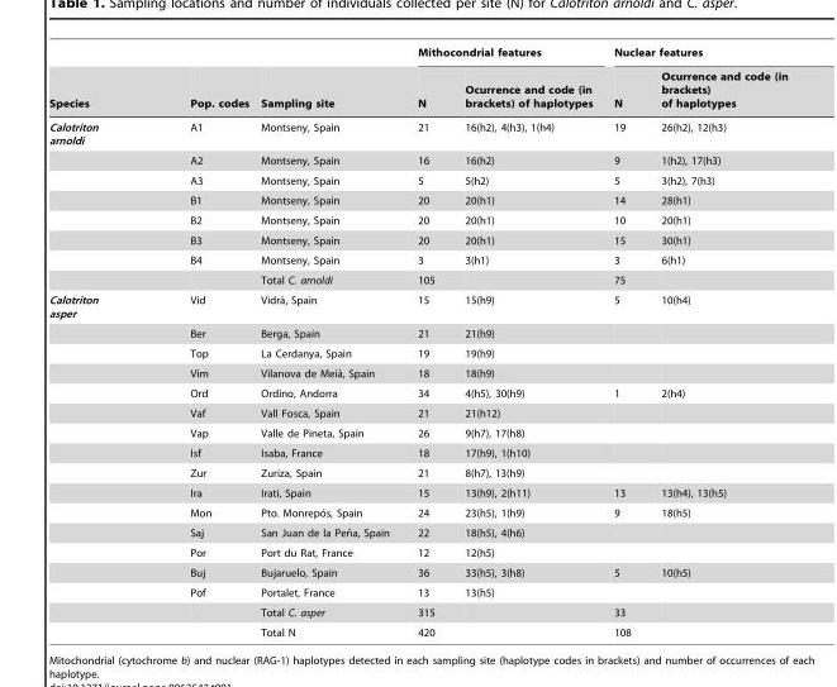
<table><thead><tr><td rowspan="2">Species</td><td rowspan="2">Pop. codes</td><td rowspan="2">Sampling site</td><td colspan="2">Mithocondrial features</td><td colspan="2">Nuclear features</td></tr><tr><td>N</td><td>Ocurrence and code (in brackets) of haplotypes</td><td>N</td><td>Ocurrence and code (in brackets) of haplotypes</td></tr></thead><tbody><tr><td rowspan="8">Calotriton arnoldi</td><td>A1</td><td>Montseny, Spain</td><td>21</td><td>16(h2), 4(h3), 1(h4)</td><td>19</td><td>26(h2), 12(h3)</td></tr><tr><td>A2</td><td>Montseny, Spain</td><td>16</td><td>16(h2)</td><td>9</td><td>1(h2), 17(h3)</td></tr><tr><td>A3</td><td>Montseny, Spain</td><td>5</td><td>5(h2)</td><td>5</td><td>3(h2), 7(h3)</td></tr><tr><td>B1</td><td>Montseny, Spain</td><td>20</td><td>20(h1)</td><td>14</td><td>28(h1)</td></tr><tr><td>B2</td><td>Montseny, Spain</td><td>20</td><td>20(h1)</td><td>10</td><td>20(h1)</td></tr><tr><td>B3</td><td>Montseny, Spain</td><td>20</td><td>20(h1)</td><td>15</td><td>30(h1)</td></tr><tr><td>B4</td><td>Montseny, Spain</td><td>3</td><td>3(h1)</td><td>3</td><td>6(h1)</td></tr><tr><td></td><td>Total C. arnoldi</td><td>105</td><td></td><td>75</td><td></td></tr><tr><td rowspan="17">Calotriton asper</td><td>Vid</td><td>Vidra`, Spain</td><td>15</td><td>15(h9)</td><td>5</td><td>10(h4)</td></tr><tr><td>Ber</td><td>Berga, Spain</td><td>21</td><td>21(h9)</td><td></td><td></td></tr><tr><td>Top</td><td>La Cerdanya, Spain</td><td>19</td><td>19(h9)</td><td></td><td></td></tr><tr><td>Vim</td><td>Vilanova de Meia`, Spain</td><td>18</td><td>18(h9)</td><td></td><td></td></tr><tr><td>Ord</td><td>Ordino, Andorra</td><td>34</td><td>4(h5), 30(h9)</td><td>1</td><td>2(h4)</td></tr><tr><td>Vaf</td><td>Vall Fosca, Spain</td><td>21</td><td>21(h12)</td><td></td><td></td></tr><tr><td>Vap</td><td>Valle de Pineta, Spain</td><td>26</td><td>9(h7), 17(h8)</td><td></td><td></td></tr><tr><td>Isf</td><td>Isaba, France</td><td>18</td><td>17(h9), 1(h10)</td><td></td><td></td></tr><tr><td>Zur</td><td>Zuriza, Spain</td><td>21</td><td>8(h7), 13(h9)</td><td></td><td></td></tr><tr><td>Ira</td><td>Irati, Spain</td><td>15</td><td>13(h9), 2(h11)</td><td>13</td><td>13(h4), 13(h5)</td></tr><tr><td>Mon</td><td>Pto. Monrepo´s, Spain</td><td>24</td><td>23(h5), 1(h9)</td><td>9</td><td>18(h5)</td></tr><tr><td>Saj</td><td>San Juan de la Pen˜a, Spain</td><td>22</td><td>18(h5), 4(h6)</td><td></td><td></td></tr><tr><td>Por</td><td>Port du Rat, France</td><td>12</td><td>12(h5)</td><td></td><td></td></tr><tr><td>Buj</td><td>Bujaruelo, Spain</td><td>36</td><td>33(h5), 3(h8)</td><td>5</td><td>10(h5)</td></tr><tr><td>Pof</td><td>Portalet, France</td><td>13</td><td>13(h5)</td><td></td><td></td></tr><tr><td></td><td>Total C. asper</td><td>315</td><td></td><td>33</td><td></td></tr><tr><td></td><td>Total N</td><td>420</td><td></td><td>108</td><td></td></tr></tbody></table>